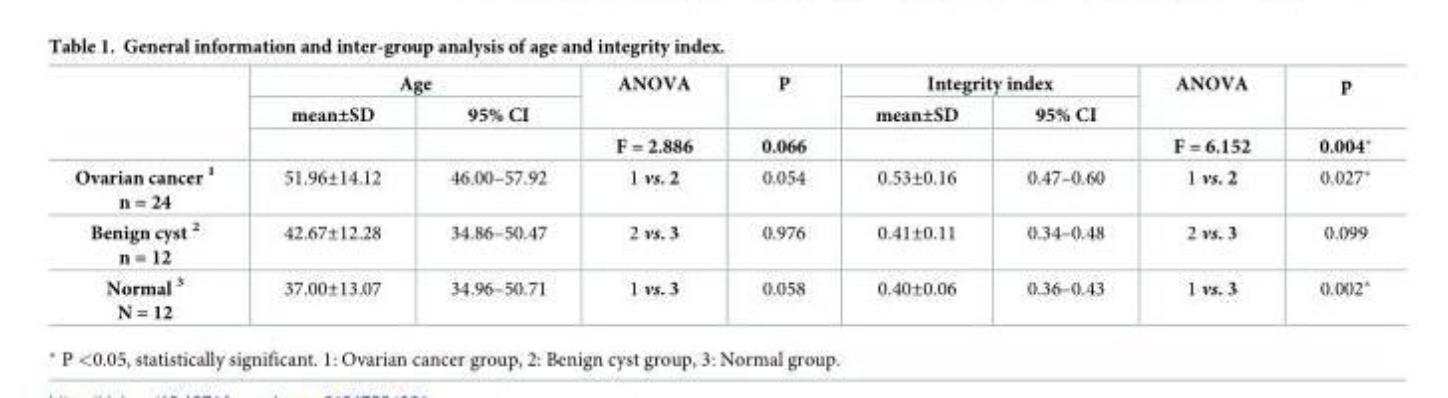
<table><thead><tr><td rowspan="3"></td><td colspan="2">Age</td><td rowspan="3">ANOVA F = 2.886</td><td rowspan="3">P 0.066</td><td colspan="2">Integrity index</td><td rowspan="3">ANOVA F = 6.152</td><td rowspan="3">p 0.004*</td></tr><tr><td rowspan="2">mean±SD</td><td rowspan="2">95% CI</td><td rowspan="2">mean±SD</td><td rowspan="2">95% CI</td></tr><tr></tr></thead><tbody><tr><td>Ovarian cancer <sup>1</sup> n = 24</td><td>51.96±14.12</td><td>46.00–57.92</td><td>1 vs. 2</td><td>0.054</td><td>0.53±0.16</td><td>0.47–0.60</td><td>1 vs. 2</td><td>0.027*</td></tr><tr><td>Benign cyst <sup>2</sup> n = 12</td><td>42.67±12.28</td><td>34.86–50.47</td><td>2 vs. 3</td><td>0.976</td><td>0.41±0.11</td><td>0.34–0.48</td><td>2 vs. 3</td><td>0.099</td></tr><tr><td>Normal <sup>3</sup> N = 12</td><td>37.00±13.07</td><td>34.96–50.71</td><td>1 vs. 3</td><td>0.058</td><td>0.40±0.06</td><td>0.36–0.43</td><td>1 vs. 3</td><td>0.002*</td></tr></tbody></table>